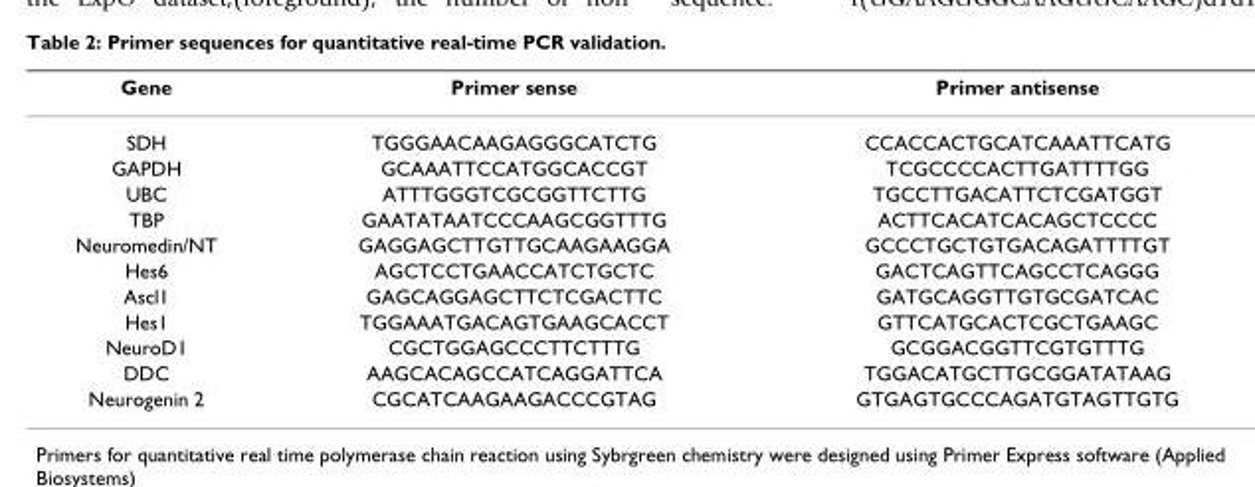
<table><thead><tr><td>Gene</td><td>Primer sense</td><td>Primer antisense</td></tr></thead><tbody><tr><td>SDH</td><td>TGGGAACAAGAGGGCATCTG</td><td>CCACCACTGCATCAAATTCATG</td></tr><tr><td>GAPDH</td><td>GCAAATTCCATGGCACCGT</td><td>TCGCCCCACTTGATTTTGG</td></tr><tr><td>UBC</td><td>ATTTGGGTCGCGGTTCTTG</td><td>TGCCTTGACATTCTCGATGGT</td></tr><tr><td>TBP</td><td>GAATATAATCCCAAGCGGTTTG</td><td>ACTTCACATCACAGCTCCCC</td></tr><tr><td>Neuromedin/NT</td><td>GAGGAGCTTGTTGCAAGAAGGA</td><td>GCCCTGCTGTGACAGATTTTGT</td></tr><tr><td>Hes6</td><td>AGCTCCTGAACCATCTGCTC</td><td>GACTCAGTTCAGCCTCAGGG</td></tr><tr><td>Ascl1</td><td>GAGCAGGAGCTTCTCGACTTC</td><td>GATGCAGGTTGTGCGATCAC</td></tr><tr><td>Hes1</td><td>TGGAAATGACAGTGAAGCACCT</td><td>GTTCATGCACTCGCTGAAGC</td></tr><tr><td>NeuroD1</td><td>CGCTGGAGCCCTTCTTTG</td><td>GCGGACGGTTCGTGTTTG</td></tr><tr><td>DDC</td><td>AAGCACAGCCATCAGGATTCA</td><td>TGGACATGCTTGCGGATATAAG</td></tr><tr><td>Neurogenin 2</td><td>CGCATCAAGAAGACCCGTAG</td><td>GTGAGTGCCCAGATGTAGTTGTG</td></tr></tbody></table>